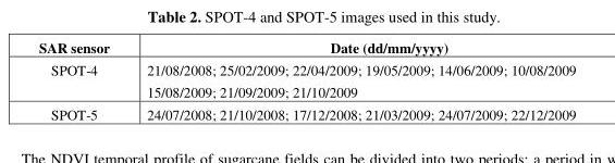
<table><thead><tr><td>SAR sensor</td><td>Date (dd/mm/yyyy)</td></tr></thead><tbody><tr><td>SPOT-4</td><td>21/08/2008; 25/02/2009; 22/04/2009; 19/05/2009; 14/06/2009; 10/08/2009 15/08/2009; 21/09/2009; 21/10/2009</td></tr><tr><td>SPOT-5</td><td>24/07/2008; 21/10/2008; 17/12/2008; 21/03/2009; 24/07/2009; 22/12/2009</td></tr></tbody></table>